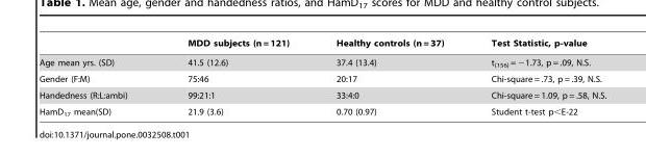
<table><thead><tr><td></td><td>MDD subjects (n = 121)</td><td>Healthy controls (n = 37)</td><td>Test Statistic, p-value</td></tr></thead><tbody><tr><td>Age mean yrs. (SD)</td><td>41.5 (12.6)</td><td>37.4 (13.4)</td><td>t<sub>(156)</sub> = −1.73, p = .09, N.S.</td></tr><tr><td>Gender (F:M)</td><td>75:46</td><td>20:17</td><td>Chi-square = .73, p = .39, N.S.</td></tr><tr><td>Handedness (R:L:ambi)</td><td>99:21:1</td><td>33:4:0</td><td>Chi-square = 1.09, p = .58, N.S.</td></tr><tr><td>HamD<sub>17</sub> mean(SD)</td><td>21.9 (3.6)</td><td>0.70 (0.97)</td><td>Student t-test p&lt;E-22</td></tr></tbody></table>